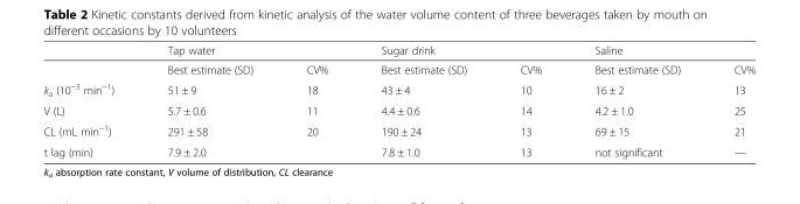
<table><thead><tr><td rowspan="2"></td><td colspan="2">Tap water</td><td colspan="2">Sugar drink</td><td colspan="2">Saline</td></tr><tr><td>Best estimate (SD)</td><td>CV%</td><td>Best estimate (SD)</td><td>CV%</td><td>Best estimate (SD)</td><td>CV%</td></tr></thead><tbody><tr><td>k<sub>a</sub> (10<sup>−3</sup> min<sup>−1</sup>)</td><td>51 ± 9</td><td>18</td><td>43 ± 4</td><td>10</td><td>16 ± 2</td><td>13</td></tr><tr><td>V (L)</td><td>5.7 ± 0.6</td><td>11</td><td>4.4 ± 0.6</td><td>14</td><td>4.2 ± 1.0</td><td>25</td></tr><tr><td>CL (mL min<sup>−1</sup>)</td><td>291 ± 58</td><td>20</td><td>190 ± 24</td><td>13</td><td>69 ± 15</td><td>21</td></tr><tr><td>t lag (min)</td><td>7.9 ± 2.0</td><td></td><td>7.8 ± 1.0</td><td>13</td><td>not significant</td><td>—</td></tr></tbody></table>